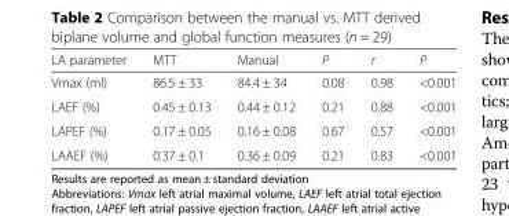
<table><thead><tr><td>LA parameter</td><td>MTT</td><td>Manual</td><td>P</td><td>r</td><td>P</td></tr></thead><tbody><tr><td>Vmax (ml)</td><td>86.5 ± 33</td><td>84.4 ± 34</td><td>0.08</td><td>0.98</td><td>&lt;0.001</td></tr><tr><td>LAEF (%)</td><td>0.45 ± 0.13</td><td>0.44 ± 0.12</td><td>0.21</td><td>0.88</td><td>&lt;0.001</td></tr><tr><td>LAPEF (%)</td><td>0.17 ± 0.05</td><td>0.16 ± 0.08</td><td>0.67</td><td>0.57</td><td>&lt;0.001</td></tr><tr><td>LAAEF (%)</td><td>0.37 ± 0.1</td><td>0.36 ± 0.09</td><td>0.21</td><td>0.83</td><td>&lt;0.001</td></tr></tbody></table>